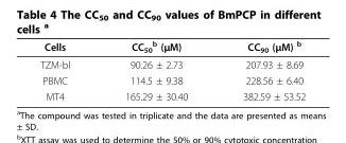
<table><thead><tr><td>Cells</td><td>CC<sub>50</sub> <sup>b</sup> (μM)</td><td>CC<sub>90</sub> (μM) <sup>b</sup></td></tr></thead><tbody><tr><td>TZM-bl</td><td>90.26 ± 2.73</td><td>207.93 ± 8.69</td></tr><tr><td>PBMC</td><td>114.5 ± 9.38</td><td>228.56 ± 6.40</td></tr><tr><td>MT4</td><td>165.29 ± 30.40</td><td>382.59 ± 53.52</td></tr></tbody></table>